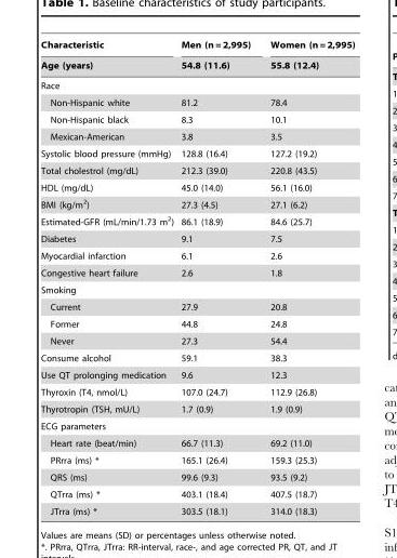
<table><thead><tr><td rowspan="2">Characteristic Age (years)</td><td rowspan="2">Men (n = 2,995) 54.8 (11.6)</td><td rowspan="2">Women (n = 2,995) 55.8 (12.4)</td></tr><tr></tr></thead><tbody><tr><td colspan="3">Race</td></tr><tr><td>Non-Hispanic white</td><td>81.2</td><td>78.4</td></tr><tr><td>Non-Hispanic black</td><td>8.3</td><td>10.1</td></tr><tr><td>Mexican-American</td><td>3.8</td><td>3.5</td></tr><tr><td>Systolic blood pressure (mmHg)</td><td>128.8 (16.4)</td><td>127.2 (19.2)</td></tr><tr><td>Total cholestrol (mg/dL)</td><td>212.3 (39.0)</td><td>220.8 (43.5)</td></tr><tr><td>HDL (mg/dL)</td><td>45.0 (14.0)</td><td>56.1 (16.0)</td></tr><tr><td>BMI (kg/m<sup>2</sup>)</td><td>27.3 (4.5)</td><td>27.1 (6.2)</td></tr><tr><td>Estimated-GFR (mL/min/1.73 m<sup>2</sup>)</td><td>86.1 (18.9)</td><td>84.6 (25.7)</td></tr><tr><td>Diabetes</td><td>9.1</td><td>7.5</td></tr><tr><td>Myocardial infarction</td><td>6.1</td><td>2.6</td></tr><tr><td>Congestive heart failure</td><td>2.6</td><td>1.8</td></tr><tr><td colspan="3">Smoking</td></tr><tr><td>Current</td><td>27.9</td><td>20.8</td></tr><tr><td>Former</td><td>44.8</td><td>24.8</td></tr><tr><td>Never</td><td>27.3</td><td>54.4</td></tr><tr><td>Consume alcohol</td><td>59.1</td><td>38.3</td></tr><tr><td>Use QT prolonging medication</td><td>9.6</td><td>12.3</td></tr><tr><td>Thyroxin (T4, nmol/L)</td><td>107.0 (24.7)</td><td>112.9 (26.8)</td></tr><tr><td>Thyrotropin (TSH, mU/L)</td><td>1.7 (0.9)</td><td>1.9 (0.9)</td></tr><tr><td colspan="3">ECG parameters</td></tr><tr><td>Heart rate (beat/min)</td><td>66.7 (11.3)</td><td>69.2 (11.0)</td></tr><tr><td>PRrra (ms) *</td><td>165.1 (26.4)</td><td>159.3 (25.3)</td></tr><tr><td>QRS (ms)</td><td>99.6 (9.3)</td><td>93.5 (9.2)</td></tr><tr><td>QTrra (ms) *</td><td>403.1 (18.4)</td><td>407.5 (18.7)</td></tr><tr><td>JTrra (ms) *</td><td>303.5 (18.1)</td><td>314.0 (18.3)</td></tr></tbody></table>